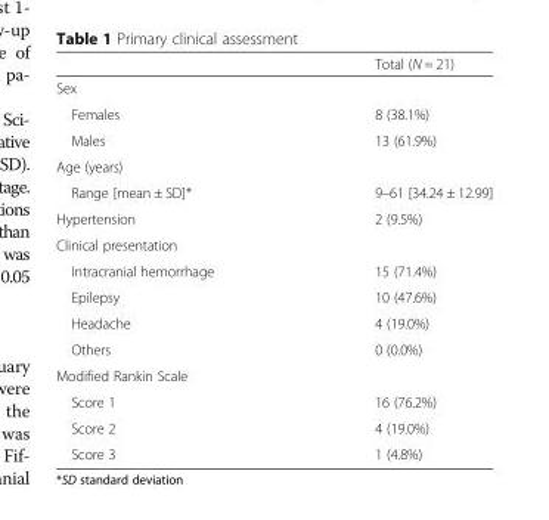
<table><thead><tr><td></td><td>Total (N = 21)</td></tr></thead><tbody><tr><td colspan="2">Sex</td></tr><tr><td>Females</td><td>8 (38.1%)</td></tr><tr><td>Males</td><td>13 (61.9%)</td></tr><tr><td colspan="2">Age (years)</td></tr><tr><td>Range [mean ± SD]*</td><td>9–61 [34.24 ± 12.99]</td></tr><tr><td>Hypertension</td><td>2 (9.5%)</td></tr><tr><td colspan="2">Clinical presentation</td></tr><tr><td>Intracranial hemorrhage</td><td>15 (71.4%)</td></tr><tr><td>Epilepsy</td><td>10 (47.6%)</td></tr><tr><td>Headache</td><td>4 (19.0%)</td></tr><tr><td>Others</td><td>0 (0.0%)</td></tr><tr><td colspan="2">Modified Rankin Scale</td></tr><tr><td>Score 1</td><td>16 (76.2%)</td></tr><tr><td>Score 2</td><td>4 (19.0%)</td></tr><tr><td>Score 3</td><td>1 (4.8%)</td></tr></tbody></table>